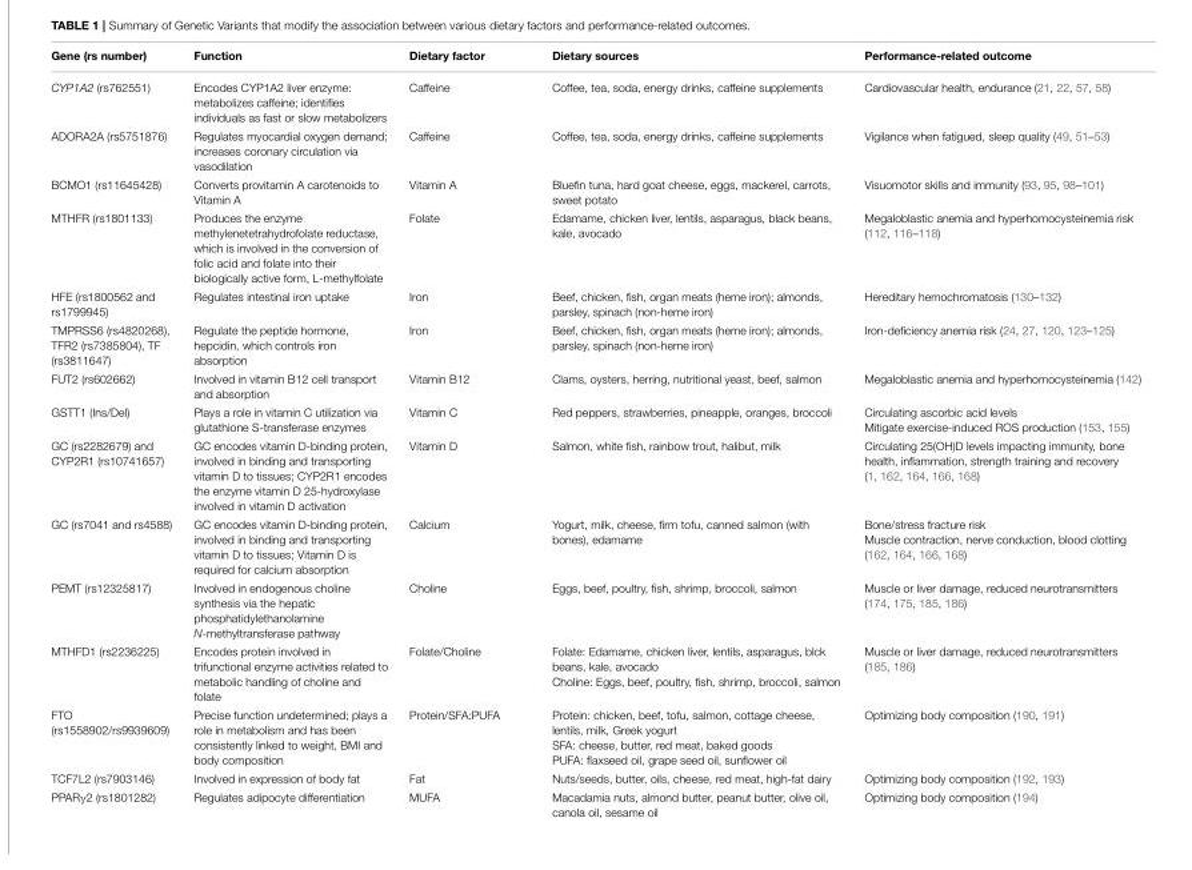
<table><thead><tr><td>Gene (rs number)</td><td>Function</td><td>Dietary factor</td><td>Dietary sources</td><td>Performance-related outcome</td></tr></thead><tbody><tr><td>CYP1A2 (rs762551)</td><td>Encodes CYP1A2 liver enzyme: metabolizes caffeine; identifies individuals as fast or slow metabolizers</td><td>Caffeine</td><td>Coffee, tea, soda, energy drinks, caffeine supplements</td><td>Cardiovascular health, endurance (21, 22, 57, 58)</td></tr><tr><td>ADORA2A (rs5751876)</td><td>Regulates myocardial oxygen demand; increases coronary circulation via vasodilation</td><td>Caffeine</td><td>Coffee, tea, soda, energy drinks, caffeine supplements</td><td>Vigilance when fatigued, sleep quality (49, 51–53)</td></tr><tr><td>BCMO1 (rs11645428)</td><td>Converts provitamin A carotenoids to Vitamin A</td><td>Vitamin A</td><td>Bluefin tuna, hard goat cheese, eggs, mackerel, carrots, sweet potato</td><td>Visuomotor skills and immunity (93, 95, 98–101)</td></tr><tr><td>MTHFR (rs1801133)</td><td>Produces the enzyme methylenetetrahydrofolate reductase, which is involved in the conversion of folic acid and folate into their biologically active form, L-methylfolate</td><td>Folate</td><td>Edamame, chicken liver, lentils, asparagus, black beans, kale, avocado</td><td>Megaloblastic anemia and hyperhomocysteinemia risk (112, 116–118)</td></tr><tr><td>HFE (rs1800562 and rs1799945)</td><td>Regulates intestinal iron uptake</td><td>Iron</td><td>Beef, chicken, fish, organ meats (heme iron); almonds, parsley, spinach (non-heme iron)</td><td>Hereditary hemochromatosis (130–132)</td></tr><tr><td>TMPRSS6 (rs4820268), TFR2 (rs7385804), TF (rs3811647)</td><td>Regulate the peptide hormone, hepcidin, which controls iron absorption</td><td>Iron</td><td>Beef, chicken, fish, organ meats (heme iron); almonds, parsley, spinach (non-heme iron)</td><td>Iron-deficiency anemia risk (24, 27, 120, 123–125)</td></tr><tr><td>FUT2 (rs602662)</td><td>Involved in vitamin B12 cell transport and absorption</td><td>Vitamin B12</td><td>Clams, oysters, herring, nutritional yeast, beef, salmon</td><td>Megaloblastic anemia and hyperhomocysteinemia (142)</td></tr><tr><td>GSTT1 (Ins/Del)</td><td>Plays a role in vitamin C utilization via glutathione S-transferase enzymes</td><td>Vitamin C</td><td>Red peppers, strawberries, pineapple, oranges, broccoli</td><td>Circulating ascorbic acid levels Mitigate exercise-induced ROS production (153, 155)</td></tr><tr><td>GC (rs2282679) and CYP2R1 (rs10741657)</td><td>GC encodes vitamin D-binding protein, involved in binding and transporting vitamin D to tissues; CYP2R1 encodes the enzyme vitamin D 25-hydroxylase involved in vitamin D activation</td><td>Vitamin D</td><td>Salmon, white fish, rainbow trout, halibut, milk</td><td>Circulating 25(OH)D levels impacting immunity, bone health, inflammation, strength training and recovery (1, 162, 164, 166, 168)</td></tr><tr><td>GC (rs7041 and rs4588)</td><td>GC encodes vitamin D-binding protein, involved in binding and transporting vitamin D to tissues; Vitamin D is required for calcium absorption</td><td>Calcium</td><td>Yogurt, milk, cheese, firm tofu, canned salmon (with bones), edamame</td><td>Bone/stress fracture risk Muscle contraction, nerve conduction, blood clotting (162, 164, 166, 168)</td></tr><tr><td>PEMT (rs12325817)</td><td>Involved in endogenous choline synthesis via the hepatic phosphatidylethanolamine N-methyltransferase pathway</td><td>Choline</td><td>Eggs, beef, poultry, fish, shrimp, broccoli, salmon</td><td>Muscle or liver damage, reduced neurotransmitters (174, 175, 185, 186)</td></tr><tr><td>MTHFD1 (rs2236225)</td><td>Encodes protein involved in trifunctional enzyme activities related to metabolic handling of choline and folate</td><td>Folate/Choline</td><td>Folate: Edamame, chicken liver, lentils, asparagus, blck beans, kale, avocado Choline: Eggs, beef, poultry, fish, shrimp, broccoli, salmon</td><td>Muscle or liver damage, reduced neurotransmitters (185, 186)</td></tr><tr><td>FTO (rs1558902/rs9939609)</td><td>Precise function undetermined; plays a role in metabolism and has been consistently linked to weight, BMI and body composition</td><td>Protein/SFA:PUFA</td><td>Protein: chicken, beef, tofu, salmon, cottage cheese, lentils, milk, Greek yogurt SFA: cheese, butter, red meat, baked goods PUFA: flaxseed oil, grape seed oil, sunflower oil</td><td>Optimizing body composition (190, 191)</td></tr><tr><td>TCF7L2 (rs7903146)</td><td>Involved in expression of body fat</td><td>Fat</td><td>Nuts/seeds, butter, oils, cheese, red meat, high-fat dairy</td><td>Optimizing body composition (192, 193)</td></tr><tr><td>PPARγ2 (rs1801282)</td><td>Regulates adipocyte differentiation</td><td>MUFA</td><td>Macadamia nuts, almond butter, peanut butter, olive oil, canola oil, sesame oil</td><td>Optimizing body composition (194)</td></tr></tbody></table>